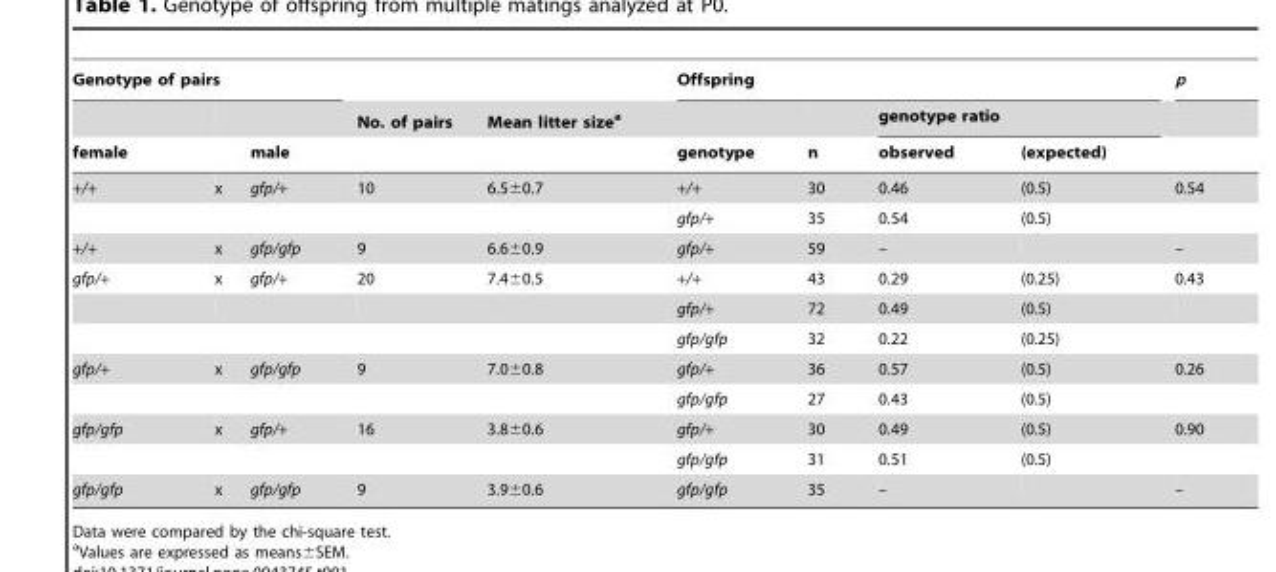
<table><thead><tr><td colspan="3">Genotype of pairs</td><td rowspan="3">No. of pairs</td><td rowspan="3">Mean litter size<sup>a</sup></td><td colspan="4">Offspring</td><td rowspan="3">p</td></tr><tr><td rowspan="2">female</td><td rowspan="2"></td><td rowspan="2">male</td><td rowspan="2">genotype</td><td rowspan="2">n</td><td colspan="2">genotype ratio</td></tr><tr><td>observed</td><td>(expected)</td></tr></thead><tbody><tr><td rowspan="2">+/+</td><td>x</td><td>gfp/+</td><td>10</td><td>6.5±0.7</td><td>+/+</td><td>30</td><td>0.46</td><td>(0.5)</td><td>0.54</td></tr><tr><td></td><td></td><td></td><td></td><td>gfp/+</td><td>35</td><td>0.54</td><td>(0.5)</td><td></td></tr><tr><td>+/+</td><td>x</td><td>gfp/gfp</td><td>9</td><td>6.6±0.9</td><td>gfp/+</td><td>59</td><td>–</td><td></td><td>–</td></tr><tr><td rowspan="3">gfp/+</td><td>x</td><td>gfp/+</td><td>20</td><td>7.4±0.5</td><td>+/+</td><td>43</td><td>0.29</td><td>(0.25)</td><td>0.43</td></tr><tr><td></td><td></td><td></td><td></td><td>gfp/+</td><td>72</td><td>0.49</td><td>(0.5)</td><td></td></tr><tr><td></td><td></td><td></td><td></td><td>gfp/gfp</td><td>32</td><td>0.22</td><td>(0.25)</td><td></td></tr><tr><td rowspan="2">gfp/+</td><td>x</td><td>gfp/gfp</td><td>9</td><td>7.0±0.8</td><td>gfp/+</td><td>36</td><td>0.57</td><td>(0.5)</td><td>0.26</td></tr><tr><td></td><td></td><td></td><td></td><td>gfp/gfp</td><td>27</td><td>0.43</td><td>(0.5)</td><td></td></tr><tr><td rowspan="2">gfp/gfp</td><td>x</td><td>gfp/+</td><td>16</td><td>3.8±0.6</td><td>gfp/+</td><td>30</td><td>0.49</td><td>(0.5)</td><td>0.90</td></tr><tr><td></td><td></td><td></td><td></td><td>gfp/gfp</td><td>31</td><td>0.51</td><td>(0.5)</td><td></td></tr><tr><td>gfp/gfp</td><td>x</td><td>gfp/gfp</td><td>9</td><td>3.9±0.6</td><td>gfp/gfp</td><td>35</td><td>–</td><td></td><td>–</td></tr></tbody></table>